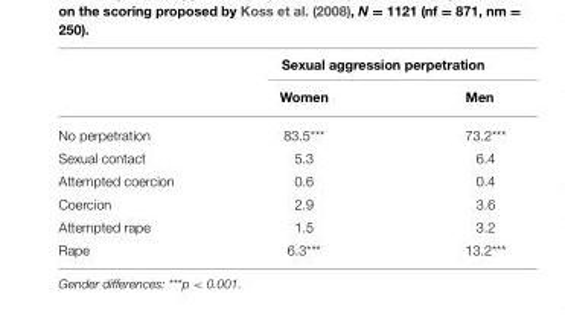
<table><thead><tr><td rowspan="2"></td><td colspan="2">Sexual aggression perpetration</td></tr><tr><td>Women</td><td>Men</td></tr></thead><tbody><tr><td>No perpetration</td><td>83.5***</td><td>73.2***</td></tr><tr><td>Sexual contact</td><td>5.3</td><td>6.4</td></tr><tr><td>Attempted coercion</td><td>0.6</td><td>0.4</td></tr><tr><td>Coercion</td><td>2.9</td><td>3.6</td></tr><tr><td>Attempted rape</td><td>1.5</td><td>3.2</td></tr><tr><td>Rape</td><td>6.3***</td><td>13.2***</td></tr></tbody></table>